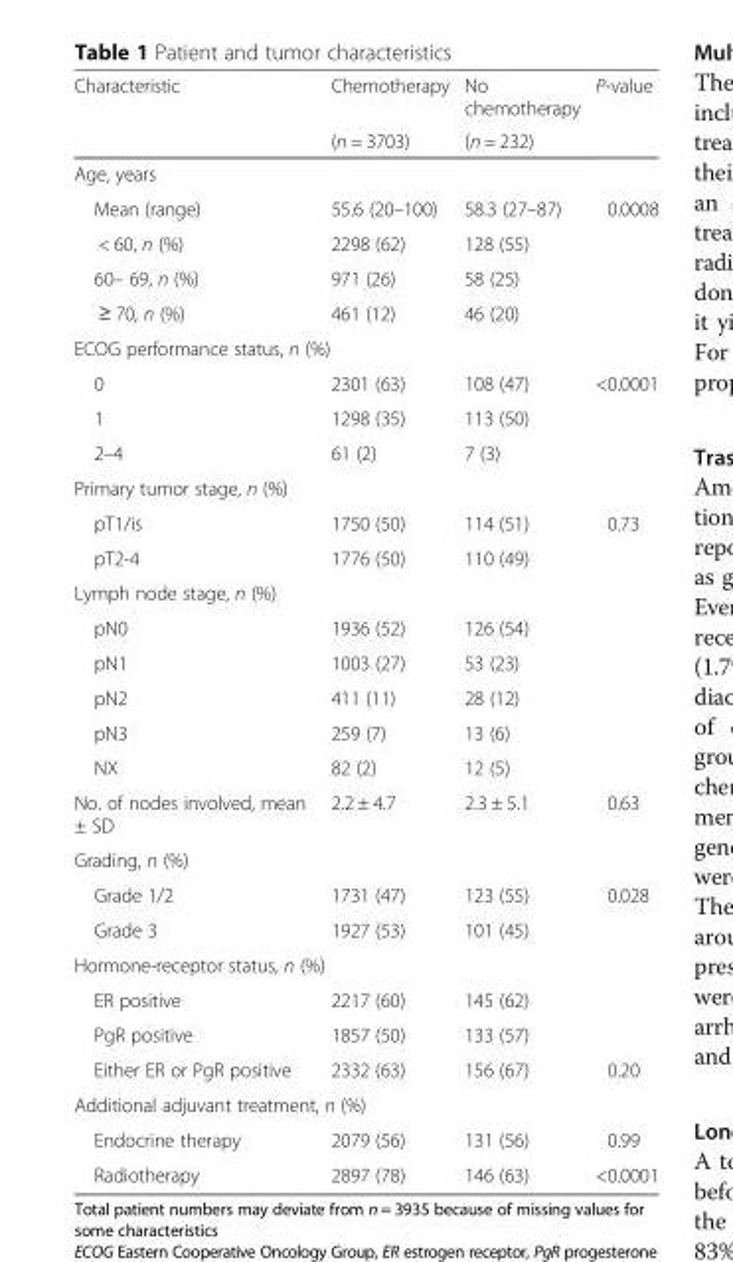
<table><thead><tr><td rowspan="2">Characteristic</td><td rowspan="2">Chemotherapy (n = 3703)</td><td rowspan="2">No chemotherapy (n = 232)</td><td rowspan="2">P-value</td></tr><tr></tr></thead><tbody><tr><td colspan="4">Age, years</td></tr><tr><td>Mean (range)</td><td>55.6 (20–100)</td><td>58.3 (27–87)</td><td>0.0008</td></tr><tr><td>&lt; 60, n (%)</td><td>2298 (62)</td><td>128 (55)</td><td></td></tr><tr><td>60– 69, n (%)</td><td>971 (26)</td><td>58 (25)</td><td></td></tr><tr><td>≥ 70, n (%)</td><td>461 (12)</td><td>46 (20)</td><td></td></tr><tr><td colspan="4">ECOG performance status, n (%)</td></tr><tr><td>0</td><td>2301 (63)</td><td>108 (47)</td><td>&lt;0.0001</td></tr><tr><td>1</td><td>1298 (35)</td><td>113 (50)</td><td></td></tr><tr><td>2–4</td><td>61 (2)</td><td>7 (3)</td><td></td></tr><tr><td colspan="4">Primary tumor stage, n (%)</td></tr><tr><td>pT1/is</td><td>1750 (50)</td><td>114 (51)</td><td>0.73</td></tr><tr><td>pT2-4</td><td>1776 (50)</td><td>110 (49)</td><td></td></tr><tr><td colspan="4">Lymph node stage, n (%)</td></tr><tr><td>pN0</td><td>1936 (52)</td><td>126 (54)</td><td></td></tr><tr><td>pN1</td><td>1003 (27)</td><td>53 (23)</td><td></td></tr><tr><td>pN2</td><td>411 (11)</td><td>28 (12)</td><td></td></tr><tr><td>pN3</td><td>259 (7)</td><td>13 (6)</td><td></td></tr><tr><td>NX</td><td>82 (2)</td><td>12 (5)</td><td></td></tr><tr><td>No. of nodes involved, mean ± SD</td><td>2.2 ± 4.7</td><td>2.3 ± 5.1</td><td>0.63</td></tr><tr><td colspan="4">Grading, n (%)</td></tr><tr><td>Grade 1/2</td><td>1731 (47)</td><td>123 (55)</td><td>0.028</td></tr><tr><td>Grade 3</td><td>1927 (53)</td><td>101 (45)</td><td></td></tr><tr><td colspan="4">Hormone-receptor status, n (%)</td></tr><tr><td>ER positive</td><td>2217 (60)</td><td>145 (62)</td><td></td></tr><tr><td>PgR positive</td><td>1857 (50)</td><td>133 (57)</td><td></td></tr><tr><td>Either ER or PgR positive</td><td>2332 (63)</td><td>156 (67)</td><td>0.20</td></tr><tr><td colspan="4">Additional adjuvant treatment, n (%)</td></tr><tr><td>Endocrine therapy</td><td>2079 (56)</td><td>131 (56)</td><td>0.99</td></tr><tr><td>Radiotherapy</td><td>2897 (78)</td><td>146 (63)</td><td>&lt;0.0001</td></tr></tbody></table>